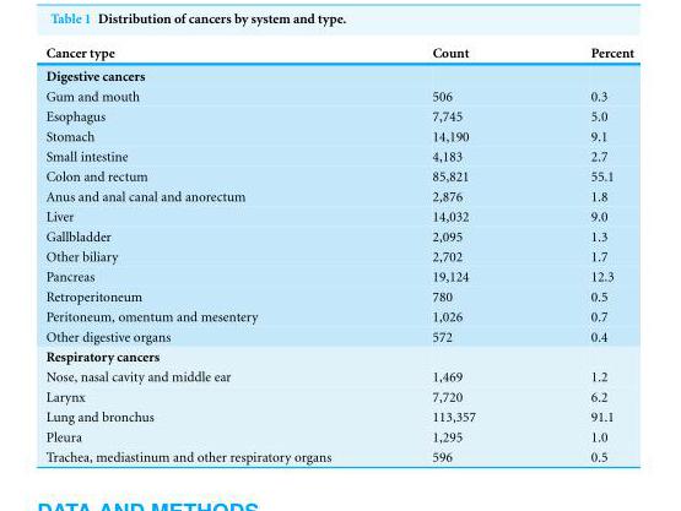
<table><thead><tr><td>Cancer type</td><td>Count</td><td>Percent</td></tr></thead><tbody><tr><td colspan="3">Digestive cancers</td></tr><tr><td>Gum and mouth</td><td>506</td><td>0.3</td></tr><tr><td>Esophagus</td><td>7,745</td><td>5.0</td></tr><tr><td>Stomach</td><td>14,190</td><td>9.1</td></tr><tr><td>Small intestine</td><td>4,183</td><td>2.7</td></tr><tr><td>Colon and rectum</td><td>85,821</td><td>55.1</td></tr><tr><td>Anus and anal canal and anorectum</td><td>2,876</td><td>1.8</td></tr><tr><td>Liver</td><td>14,032</td><td>9.0</td></tr><tr><td>Gallbladder</td><td>2,095</td><td>1.3</td></tr><tr><td>Other biliary</td><td>2,702</td><td>1.7</td></tr><tr><td>Pancreas</td><td>19,124</td><td>12.3</td></tr><tr><td>Retroperitoneum</td><td>780</td><td>0.5</td></tr><tr><td>Peritoneum, omentum and mesentery</td><td>1,026</td><td>0.7</td></tr><tr><td>Other digestive organs</td><td>572</td><td>0.4</td></tr><tr><td colspan="3">Respiratory cancers</td></tr><tr><td>Nose, nasal cavity and middle ear</td><td>1,469</td><td>1.2</td></tr><tr><td>Larynx</td><td>7,720</td><td>6.2</td></tr><tr><td>Lung and bronchus</td><td>113,357</td><td>91.1</td></tr><tr><td>Pleura</td><td>1,295</td><td>1.0</td></tr><tr><td>Trachea, mediastinum and other respiratory organs</td><td>596</td><td>0.5</td></tr></tbody></table>